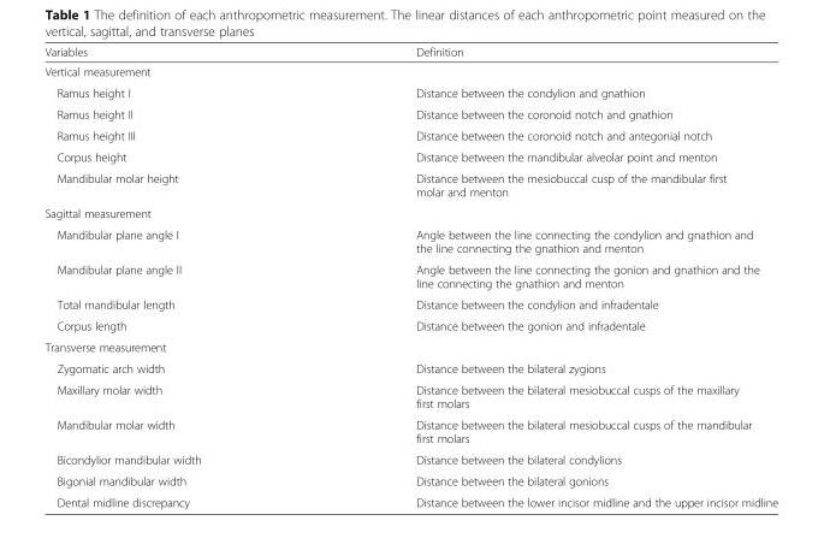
<table><thead><tr><td>Variables</td><td>Definition</td></tr></thead><tbody><tr><td colspan="2">Vertical measurement</td></tr><tr><td>Ramus height I</td><td>Distance between the condylion and gnathion</td></tr><tr><td>Ramus height II</td><td>Distance between the coronoid notch and gnathion</td></tr><tr><td>Ramus height III</td><td>Distance between the coronoid notch and antegonial notch</td></tr><tr><td>Corpus height</td><td>Distance between the mandibular alveolar point and menton</td></tr><tr><td>Mandibular molar height</td><td>Distance between the mesiobuccal cusp of the mandibular first molar and menton</td></tr><tr><td colspan="2">Sagittal measurement</td></tr><tr><td>Mandibular plane angle I</td><td>Angle between the line connecting the condylion and gnathion and the line connecting the gnathion and menton</td></tr><tr><td>Mandibular plane angle II</td><td>Angle between the line connecting the gonion and gnathion and the line connecting the gnathion and menton</td></tr><tr><td>Total mandibular length</td><td>Distance between the condylion and infradentale</td></tr><tr><td>Corpus length</td><td>Distance between the gonion and infradentale</td></tr><tr><td colspan="2">Transverse measurement</td></tr><tr><td>Zygomatic arch width</td><td>Distance between the bilateral zygions</td></tr><tr><td>Maxillary molar width</td><td>Distance between the bilateral mesiobuccal cusps of the maxillary first molars</td></tr><tr><td>Mandibular molar width</td><td>Distance between the bilateral mesiobuccal cusps of the mandibular first molars</td></tr><tr><td>Bicondylior mandibular width</td><td>Distance between the bilateral condylions</td></tr><tr><td>Bigonial mandibular width</td><td>Distance between the bilateral gonions</td></tr><tr><td>Dental midline discrepancy</td><td>Distance between the lower incisor midline and the upper incisor midline</td></tr></tbody></table>